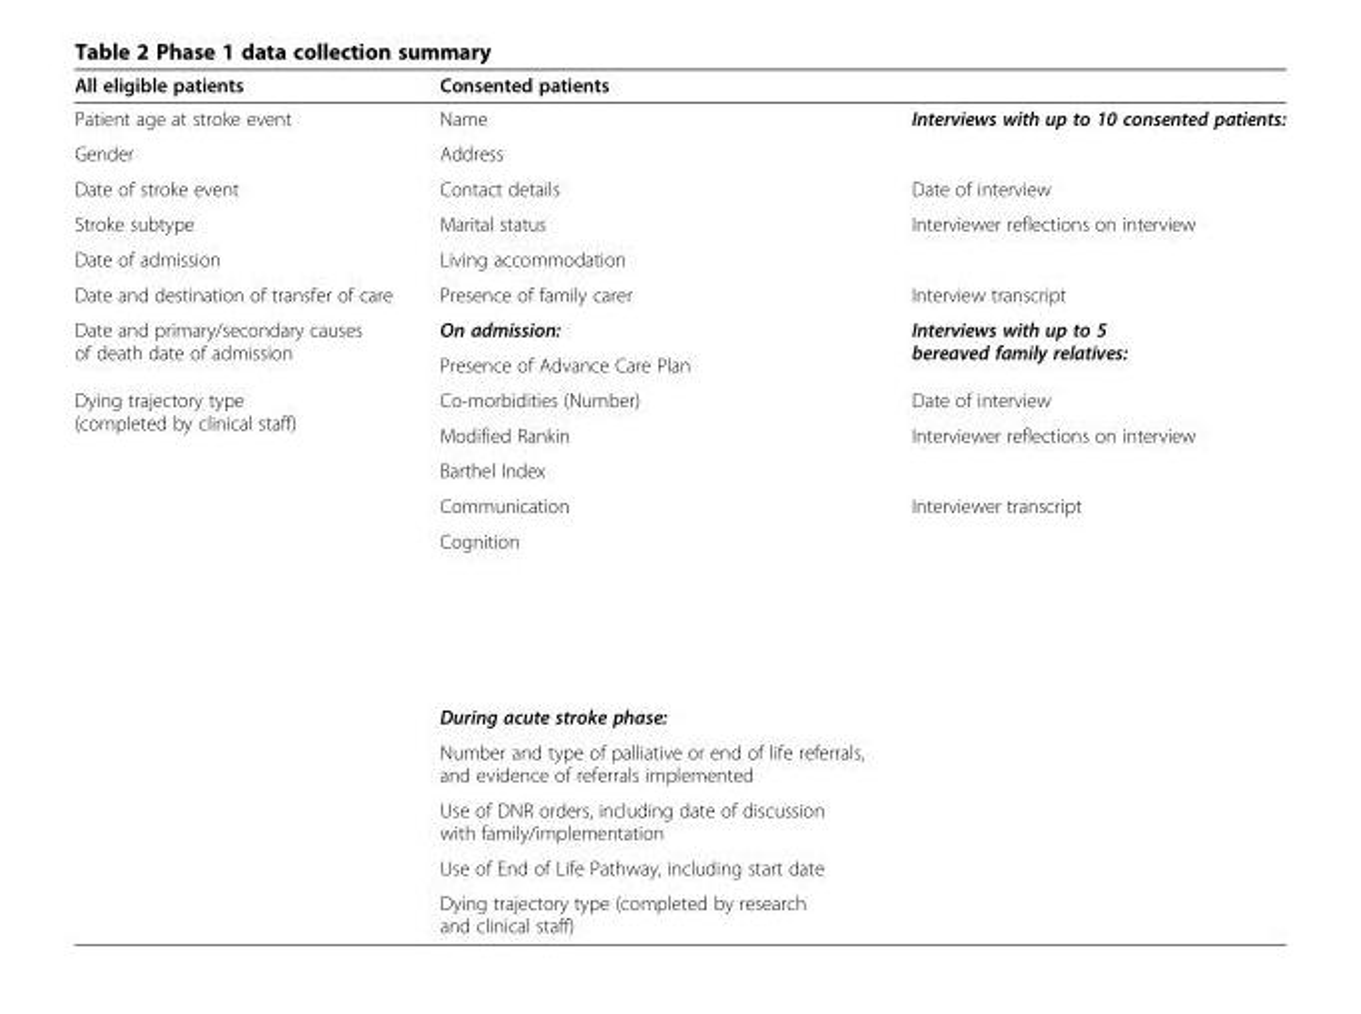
<table><thead><tr><td>All eligible patients</td><td>Consented patients</td><td></td></tr></thead><tbody><tr><td>Patient age at stroke event</td><td>Name</td><td rowspan="2">Interviews with up to 10 consented patients:</td></tr><tr><td>Gender</td><td>Address</td></tr><tr><td>Date of stroke event</td><td>Contact details</td><td>Date of interview</td></tr><tr><td>Stroke subtype</td><td>Marital status</td><td rowspan="2">Interviewer reflections on interview</td></tr><tr><td>Date of admission</td><td>Living accommodation</td></tr><tr><td>Date and destination of transfer of care</td><td>Presence of family carer</td><td>Interview transcript</td></tr><tr><td rowspan="2">Date and primary/secondary causes of death date of admission</td><td>On admission:</td><td rowspan="2">Interviews with up to 5 bereaved family relatives:</td></tr><tr><td>Presence of Advance Care Plan</td></tr><tr><td rowspan="10">Dying trajectory type (completed by clinical staff)</td><td>Co-morbidities (Number)</td><td>Date of interview</td></tr><tr><td>Modified Rankin</td><td rowspan="2">Interviewer reflections on interview</td></tr><tr><td>Barthel Index</td></tr><tr><td>Communication</td><td rowspan="7">Interviewer transcript</td></tr><tr><td>Cognition</td></tr><tr><td>During acute stroke phase:</td></tr><tr><td>Number and type of palliative or end of life referrals, and evidence of referrals implemented</td></tr><tr><td>Use of DNR orders, including date of discussion with family/implementation</td></tr><tr><td>Use of End of Life Pathway, including start date</td></tr><tr><td>Dying trajectory type (completed by research and clinical staff)</td></tr></tbody></table>